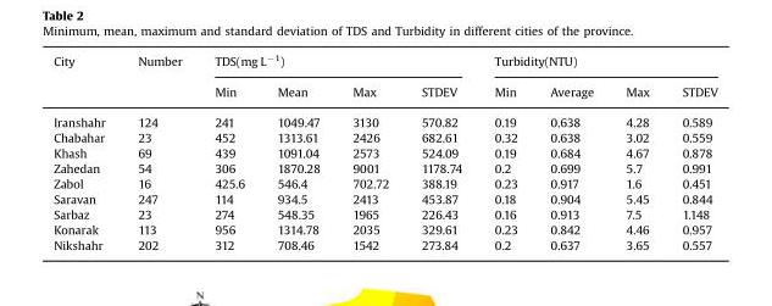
<table><thead><tr><td rowspan="2">City</td><td rowspan="2">Number</td><td colspan="4">TDS(mg L<sup>−1</sup>)</td><td colspan="4">Turbidity(NTU)</td></tr><tr><td>Min</td><td>Mean</td><td>Max</td><td>STDEV</td><td>Min</td><td>Average</td><td>Max</td><td>STDEV</td></tr></thead><tbody><tr><td>Iranshahr</td><td>124</td><td>241</td><td>1049.47</td><td>3130</td><td>570.82</td><td>0.19</td><td>0.638</td><td>4.28</td><td>0.589</td></tr><tr><td>Chabahar</td><td>23</td><td>452</td><td>1313.61</td><td>2426</td><td>682.61</td><td>0.32</td><td>0.638</td><td>3.02</td><td>0.559</td></tr><tr><td>Khash</td><td>69</td><td>439</td><td>1091.04</td><td>2573</td><td>524.09</td><td>0.19</td><td>0.684</td><td>4.67</td><td>0.878</td></tr><tr><td>Zahedan</td><td>54</td><td>306</td><td>1870.28</td><td>9001</td><td>1178.74</td><td>0.2</td><td>0.699</td><td>5.7</td><td>0.991</td></tr><tr><td>Zabol</td><td>16</td><td>425.6</td><td>546.4</td><td>702.72</td><td>388.19</td><td>0.23</td><td>0.917</td><td>1.6</td><td>0.451</td></tr><tr><td>Saravan</td><td>247</td><td>114</td><td>934.5</td><td>2413</td><td>453.87</td><td>0.18</td><td>0.904</td><td>5.45</td><td>0.844</td></tr><tr><td>Sarbaz</td><td>23</td><td>274</td><td>548.35</td><td>1965</td><td>226.43</td><td>0.16</td><td>0.913</td><td>7.5</td><td>1.148</td></tr><tr><td>Konarak</td><td>113</td><td>956</td><td>1314.78</td><td>2035</td><td>329.61</td><td>0.23</td><td>0.842</td><td>4.46</td><td>0.957</td></tr><tr><td>Nikshahr</td><td>202</td><td>312</td><td>708.46</td><td>1542</td><td>273.84</td><td>0.2</td><td>0.637</td><td>3.65</td><td>0.557</td></tr></tbody></table>